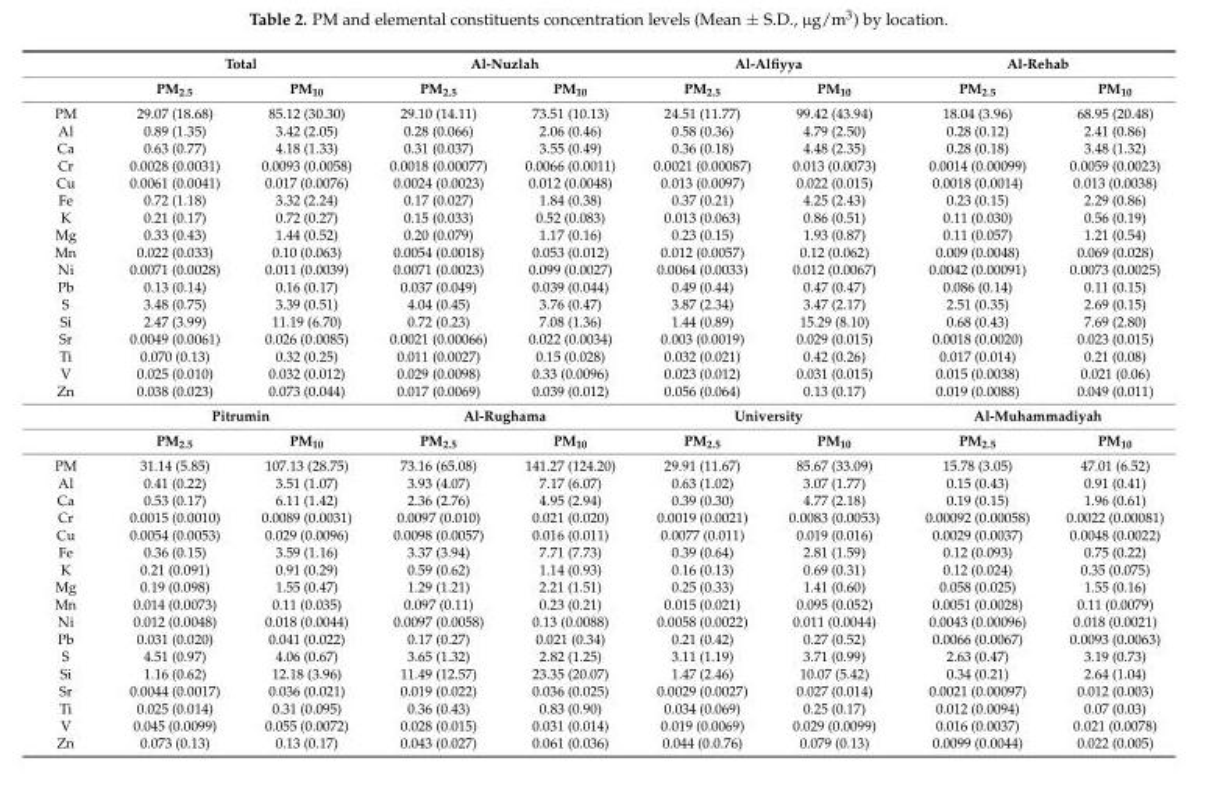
<table><thead><tr><td rowspan="2"></td><td colspan="2">Total</td><td colspan="2">Al-Nuzlah</td><td colspan="2">Al-Alfiyya</td><td colspan="2">Al-Rehab</td></tr><tr><td>PM<sub>2.5</sub></td><td>PM<sub>10</sub></td><td>PM<sub>2.5</sub></td><td>PM<sub>10</sub></td><td>PM<sub>2.5</sub></td><td>PM<sub>10</sub></td><td>PM<sub>2.5</sub></td><td>PM<sub>10</sub></td></tr></thead><tbody><tr><td>PM</td><td>29.07 (18.68)</td><td>85.12 (30.30)</td><td>29.10 (14.11)</td><td>73.51 (10.13)</td><td>24.51 (11.77)</td><td>99.42 (43.94)</td><td>18.04 (3.96)</td><td>68.95 (20.48)</td></tr><tr><td>Al</td><td>0.89 (1.35)</td><td>3.42 (2.05)</td><td>0.28 (0.066)</td><td>2.06 (0.46)</td><td>0.58 (0.36)</td><td>4.79 (2.50)</td><td>0.28 (0.12)</td><td>2.41 (0.86)</td></tr><tr><td>Ca</td><td>0.63 (0.77)</td><td>4.18 (1.33)</td><td>0.31 (0.037)</td><td>3.55 (0.49)</td><td>0.36 (0.18)</td><td>4.48 (2.35)</td><td>0.28 (0.18)</td><td>3.48 (1.32)</td></tr><tr><td>Cr</td><td>0.0028 (0.0031)</td><td>0.0093 (0.0058)</td><td>0.0018 (0.00077)</td><td>0.0066 (0.0011)</td><td>0.0021 (0.00087)</td><td>0.013 (0.0073)</td><td>0.0014 (0.00099)</td><td>0.0059 (0.0023)</td></tr><tr><td>Cu</td><td>0.0061 (0.0041)</td><td>0.017 (0.0076)</td><td>0.0024 (0.0023)</td><td>0.012 (0.0048)</td><td>0.013 (0.0097)</td><td>0.022 (0.015)</td><td>0.0018 (0.0014)</td><td>0.013 (0.0038)</td></tr><tr><td>Fe</td><td>0.72 (1.18)</td><td>3.32 (2.24)</td><td>0.17 (0.027)</td><td>1.84 (0.38)</td><td>0.37 (0.21)</td><td>4.25 (2.43)</td><td>0.23 (0.15)</td><td>2.29 (0.86)</td></tr><tr><td>K</td><td>0.21 (0.17)</td><td>0.72 (0.27)</td><td>0.15 (0.033)</td><td>0.52 (0.083)</td><td>0.013 (0.063)</td><td>0.86 (0.51)</td><td>0.11 (0.030)</td><td>0.56 (0.19)</td></tr><tr><td>Mg</td><td>0.33 (0.43)</td><td>1.44 (0.52)</td><td>0.20 (0.079)</td><td>1.17 (0.16)</td><td>0.23 (0.15)</td><td>1.93 (0.87)</td><td>0.11 (0.057)</td><td>1.21 (0.54)</td></tr><tr><td>Mn</td><td>0.022 (0.033)</td><td>0.10 (0.063)</td><td>0.0054 (0.0018)</td><td>0.053 (0.012)</td><td>0.012 (0.0057)</td><td>0.12 (0.062)</td><td>0.009 (0.0048)</td><td>0.069 (0.028)</td></tr><tr><td>Ni</td><td>0.0071 (0.0028)</td><td>0.011 (0.0039)</td><td>0.0071 (0.0023)</td><td>0.099 (0.0027)</td><td>0.0064 (0.0033)</td><td>0.012 (0.0067)</td><td>0.0042 (0.00091)</td><td>0.0073 (0.0025)</td></tr><tr><td>Pb</td><td>0.13 (0.14)</td><td>0.16 (0.17)</td><td>0.037 (0.049)</td><td>0.039 (0.044)</td><td>0.49 (0.44)</td><td>0.47 (0.47)</td><td>0.086 (0.14)</td><td>0.11 (0.15)</td></tr><tr><td>S</td><td>3.48 (0.75)</td><td>3.39 (0.51)</td><td>4.04 (0.45)</td><td>3.76 (0.47)</td><td>3.87 (2.34)</td><td>3.47 (2.17)</td><td>2.51 (0.35)</td><td>2.69 (0.15)</td></tr><tr><td>Si</td><td>2.47 (3.99)</td><td>11.19 (6.70)</td><td>0.72 (0.23)</td><td>7.08 (1.36)</td><td>1.44 (0.89)</td><td>15.29 (8.10)</td><td>0.68 (0.43)</td><td>7.69 (2.80)</td></tr><tr><td>Sr</td><td>0.0049 (0.0061)</td><td>0.026 (0.0085)</td><td>0.0021 (0.00066)</td><td>0.022 (0.0034)</td><td>0.003 (0.0019)</td><td>0.029 (0.015)</td><td>0.0018 (0.0020)</td><td>0.023 (0.015)</td></tr><tr><td>Ti</td><td>0.070 (0.13)</td><td>0.32 (0.25)</td><td>0.011 (0.0027)</td><td>0.15 (0.028)</td><td>0.032 (0.021)</td><td>0.42 (0.26)</td><td>0.017 (0.014)</td><td>0.21 (0.08)</td></tr><tr><td>V</td><td>0.025 (0.010)</td><td>0.032 (0.012)</td><td>0.029 (0.0098)</td><td>0.33 (0.0096)</td><td>0.023 (0.012)</td><td>0.031 (0.015)</td><td>0.015 (0.0038)</td><td>0.021 (0.06)</td></tr><tr><td rowspan="3">Zn</td><td>0.038 (0.023)</td><td>0.073 (0.044)</td><td>0.017 (0.0069)</td><td>0.039 (0.012)</td><td>0.056 (0.064)</td><td>0.13 (0.17)</td><td>0.019 (0.0088)</td><td>0.049 (0.011)</td></tr><tr><td colspan="2">Pitrumin</td><td colspan="2">Al-Rughama</td><td colspan="2">University</td><td colspan="2">Al-Muhammadiyah</td></tr><tr><td>PM<sub>2.5</sub></td><td>PM<sub>10</sub></td><td>PM<sub>2.5</sub></td><td>PM<sub>10</sub></td><td>PM<sub>2.5</sub></td><td>PM<sub>10</sub></td><td>PM<sub>2.5</sub></td><td>PM<sub>10</sub></td></tr><tr><td>PM</td><td>31.14 (5.85)</td><td>107.13 (28.75)</td><td>73.16 (65.08)</td><td>141.27 (124.20)</td><td>29.91 (11.67)</td><td>85.67 (33.09)</td><td>15.78 (3.05)</td><td>47.01 (6.52)</td></tr><tr><td>Al</td><td>0.41 (0.22)</td><td>3.51 (1.07)</td><td>3.93 (4.07)</td><td>7.17 (6.07)</td><td>0.63 (1.02)</td><td>3.07 (1.77)</td><td>0.15 (0.43)</td><td>0.91 (0.41)</td></tr><tr><td>Ca</td><td>0.53 (0.17)</td><td>6.11 (1.42)</td><td>2.36 (2.76)</td><td>4.95 (2.94)</td><td>0.39 (0.30)</td><td>4.77 (2.18)</td><td>0.19 (0.15)</td><td>1.96 (0.61)</td></tr><tr><td>Cr</td><td>0.0015 (0.0010)</td><td>0.0089 (0.0031)</td><td>0.0097 (0.010)</td><td>0.021 (0.020)</td><td>0.0019 (0.0021)</td><td>0.0083 (0.0053)</td><td>0.00092 (0.00058)</td><td>0.0022 (0.00081)</td></tr><tr><td>Cu</td><td>0.0054 (0.0053)</td><td>0.029 (0.0096)</td><td>0.0098 (0.0057)</td><td>0.016 (0.011)</td><td>0.0077 (0.011)</td><td>0.019 (0.016)</td><td>0.0029 (0.0037)</td><td>0.0048 (0.0022)</td></tr><tr><td>Fe</td><td>0.36 (0.15)</td><td>3.59 (1.16)</td><td>3.37 (3.94)</td><td>7.71 (7.73)</td><td>0.39 (0.64)</td><td>2.81 (1.59)</td><td>0.12 (0.093)</td><td>0.75 (0.22)</td></tr><tr><td>K</td><td>0.21 (0.091)</td><td>0.91 (0.29)</td><td>0.59 (0.62)</td><td>1.14 (0.93)</td><td>0.16 (0.13)</td><td>0.69 (0.31)</td><td>0.12 (0.024)</td><td>0.35 (0.075)</td></tr><tr><td>Mg</td><td>0.19 (0.098)</td><td>1.55 (0.47)</td><td>1.29 (1.21)</td><td>2.21 (1.51)</td><td>0.25 (0.33)</td><td>1.41 (0.60)</td><td>0.058 (0.025)</td><td>1.55 (0.16)</td></tr><tr><td>Mn</td><td>0.014 (0.0073)</td><td>0.11 (0.035)</td><td>0.097 (0.11)</td><td>0.23 (0.21)</td><td>0.015 (0.021)</td><td>0.095 (0.052)</td><td>0.0051 (0.0028)</td><td>0.11 (0.0079)</td></tr><tr><td>Ni</td><td>0.012 (0.0048)</td><td>0.018 (0.0044)</td><td>0.0097 (0.0058)</td><td>0.13 (0.0088)</td><td>0.0058 (0.0022)</td><td>0.011 (0.0044)</td><td>0.0043 (0.00096)</td><td>0.018 (0.0021)</td></tr><tr><td>Pb</td><td>0.031 (0.020)</td><td>0.041 (0.022)</td><td>0.17 (0.27)</td><td>0.021 (0.34)</td><td>0.21 (0.42)</td><td>0.27 (0.52)</td><td>0.0066 (0.0067)</td><td>0.0093 (0.0063)</td></tr><tr><td>S</td><td>4.51 (0.97)</td><td>4.06 (0.67)</td><td>3.65 (1.32)</td><td>2.82 (1.25)</td><td>3.11 (1.19)</td><td>3.71 (0.99)</td><td>2.63 (0.47)</td><td>3.19 (0.73)</td></tr><tr><td>Si</td><td>1.16 (0.62)</td><td>12.18 (3.96)</td><td>11.49 (12.57)</td><td>23.35 (20.07)</td><td>1.47 (2.46)</td><td>10.07 (5.42)</td><td>0.34 (0.21)</td><td>2.64 (1.04)</td></tr><tr><td>Sr</td><td>0.0044 (0.0017)</td><td>0.036 (0.021)</td><td>0.019 (0.022)</td><td>0.036 (0.025)</td><td>0.0029 (0.0027)</td><td>0.027 (0.014)</td><td>0.0021 (0.00097)</td><td>0.012 (0.003)</td></tr><tr><td>Ti</td><td>0.025 (0.014)</td><td>0.31 (0.095)</td><td>0.36 (0.43)</td><td>0.83 (0.90)</td><td>0.034 (0.069)</td><td>0.25 (0.17)</td><td>0.012 (0.0094)</td><td>0.07 (0.03)</td></tr><tr><td>V</td><td>0.045 (0.0099)</td><td>0.055 (0.0072)</td><td>0.028 (0.015)</td><td>0.031 (0.014)</td><td>0.019 (0.0069)</td><td>0.029 (0.0099)</td><td>0.016 (0.0037)</td><td>0.021 (0.0078)</td></tr><tr><td>Zn</td><td>0.073 (0.13)</td><td>0.13 (0.17)</td><td>0.043 (0.027)</td><td>0.061 (0.036)</td><td>0.044 (0.0.76)</td><td>0.079 (0.13)</td><td>0.0099 (0.0044)</td><td>0.022 (0.005)</td></tr></tbody></table>